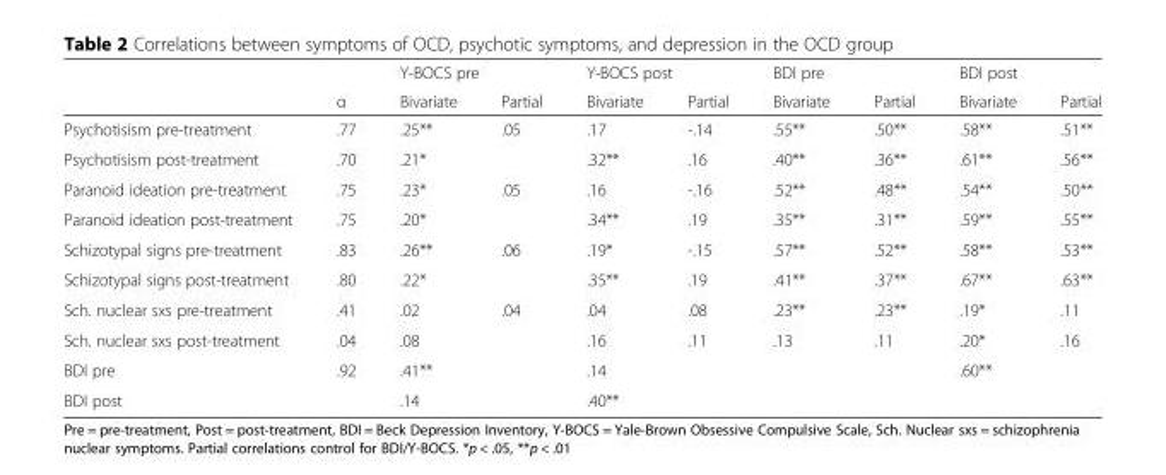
<table><thead><tr><td rowspan="2"></td><td rowspan="2">α</td><td colspan="2">Y-BOCS pre</td><td colspan="2">Y-BOCS post</td><td colspan="2">BDI pre</td><td colspan="2">BDI post</td></tr><tr><td>Bivariate</td><td>Partial</td><td>Bivariate</td><td>Partial</td><td>Bivariate</td><td>Partial</td><td>Bivariate</td><td>Partial</td></tr></thead><tbody><tr><td>Psychotisism pre-treatment</td><td>.77</td><td>.25**</td><td>.05</td><td>.17</td><td>-.14</td><td>.55**</td><td>.50**</td><td>.58**</td><td>.51**</td></tr><tr><td>Psychotisism post-treatment</td><td>.70</td><td>.21*</td><td></td><td>.32**</td><td>.16</td><td>.40**</td><td>.36**</td><td>.61**</td><td>.56**</td></tr><tr><td>Paranoid ideation pre-treatment</td><td>.75</td><td>.23*</td><td>.05</td><td>.16</td><td>-.16</td><td>.52**</td><td>.48**</td><td>.54**</td><td>.50**</td></tr><tr><td>Paranoid ideation post-treatment</td><td>.75</td><td>.20*</td><td></td><td>.34**</td><td>.19</td><td>.35**</td><td>.31**</td><td>.59**</td><td>.55**</td></tr><tr><td>Schizotypal signs pre-treatment</td><td>.83</td><td>.26**</td><td>.06</td><td>.19*</td><td>-.15</td><td>.57**</td><td>.52**</td><td>.58**</td><td>.53**</td></tr><tr><td>Schizotypal signs post-treatment</td><td>.80</td><td>.22*</td><td></td><td>.35**</td><td>.19</td><td>.41**</td><td>.37**</td><td>.67**</td><td>.63**</td></tr><tr><td>Sch. nuclear sxs pre-treatment</td><td>.41</td><td>.02</td><td>.04</td><td>.04</td><td>.08</td><td>.23**</td><td>.23**</td><td>.19*</td><td>.11</td></tr><tr><td>Sch. nuclear sxs post-treatment</td><td>.04</td><td>.08</td><td></td><td>.16</td><td>.11</td><td>.13</td><td>.11</td><td>.20*</td><td>.16</td></tr><tr><td>BDI pre</td><td>.92</td><td>.41**</td><td></td><td>.14</td><td></td><td></td><td></td><td>.60**</td><td></td></tr><tr><td>BDI post</td><td></td><td>.14</td><td></td><td>.40**</td><td></td><td></td><td></td><td></td><td></td></tr></tbody></table>